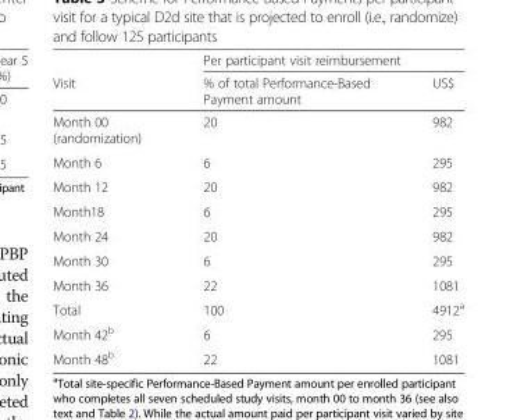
<table><thead><tr><td rowspan="2">Visit</td><td colspan="2">Per participant visit reimbursement</td></tr><tr><td>% of total Performance-Based Payment amount</td><td>US$</td></tr></thead><tbody><tr><td>Month 00 (randomization)</td><td>20</td><td>982</td></tr><tr><td>Month 6</td><td>6</td><td>295</td></tr><tr><td>Month 12</td><td>20</td><td>982</td></tr><tr><td>Month18</td><td>6</td><td>295</td></tr><tr><td>Month 24</td><td>20</td><td>982</td></tr><tr><td>Month 30</td><td>6</td><td>295</td></tr><tr><td>Month 36</td><td>22</td><td>1081</td></tr><tr><td>Total</td><td>100</td><td>4912<sup>a</sup></td></tr><tr><td>Month 42<sup>b</sup></td><td>6</td><td>295</td></tr><tr><td>Month 48<sup>b</sup></td><td>22</td><td>1081</td></tr></tbody></table>